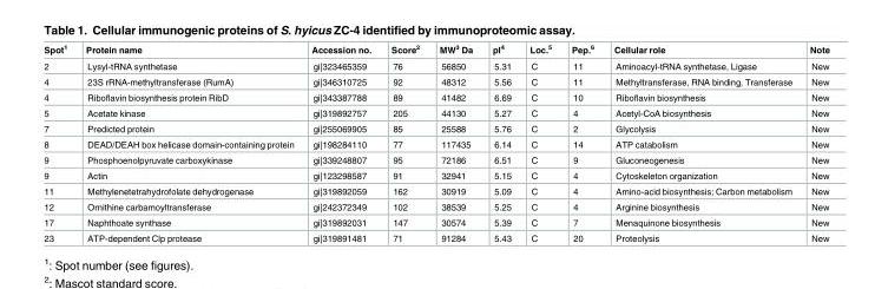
<table><thead><tr><td>Spot<sup>1</sup></td><td>Protein name</td><td>Accession no.</td><td>Score<sup>2</sup></td><td>MW<sup>3</sup> Da</td><td>pI<sup>4</sup></td><td>Loc.<sup>5</sup></td><td>Pep.<sup>6</sup></td><td>Cellular role</td><td>Note</td></tr></thead><tbody><tr><td>2</td><td>Lysyl-tRNA synthetase</td><td>gi|323465359</td><td>76</td><td>56850</td><td>5.31</td><td>C</td><td>11</td><td>Aminoacyl-tRNA synthetase, Ligase</td><td>New</td></tr><tr><td>4</td><td>23S rRNA-methyltransferase (RumA)</td><td>gi|346310725</td><td>92</td><td>48312</td><td>5.56</td><td>C</td><td>11</td><td>Methyltransferase, RNA binding, Transferase</td><td>New</td></tr><tr><td>4</td><td>Riboflavin biosynthesis protein RibD</td><td>gi|343387788</td><td>89</td><td>41482</td><td>6.69</td><td>C</td><td>10</td><td>Riboflavin biosynthesis</td><td>New</td></tr><tr><td>5</td><td>Acetate kinase</td><td>gi|319892757</td><td>205</td><td>44130</td><td>5.27</td><td>C</td><td>4</td><td>Acetyl-CoA biosynthesis</td><td>New</td></tr><tr><td>7</td><td>Predicted protein</td><td>gi|255069905</td><td>85</td><td>25588</td><td>5.76</td><td>C</td><td>2</td><td>Glycolysis</td><td>New</td></tr><tr><td>8</td><td>DEAD/DEAH box helicase domain-containing protein</td><td>gi|198284110</td><td>77</td><td>117435</td><td>6.14</td><td>C</td><td>14</td><td>ATP catabolism</td><td>New</td></tr><tr><td>9</td><td>Phosphoenolpyruvate carboxykinase</td><td>gi|339248807</td><td>95</td><td>72186</td><td>6.51</td><td>C</td><td>9</td><td>Gluconeogenesis</td><td>New</td></tr><tr><td>9</td><td>Actin</td><td>gi|123298587</td><td>91</td><td>32941</td><td>5.15</td><td>C</td><td>4</td><td>Cytoskeleton organization</td><td>New</td></tr><tr><td>11</td><td>Methylenetetrahydrofolate dehydrogenase</td><td>gi|319892059</td><td>162</td><td>30919</td><td>5.09</td><td>C</td><td>4</td><td>Amino-acid biosynthesis; Carbon metabolism</td><td>New</td></tr><tr><td>12</td><td>Ornithine carbamoyltransferase</td><td>gi|242372349</td><td>102</td><td>38539</td><td>5.25</td><td>C</td><td>4</td><td>Arginine biosynthesis</td><td>New</td></tr><tr><td>17</td><td>Naphthoate synthase</td><td>gi|319892031</td><td>147</td><td>30574</td><td>5.39</td><td>C</td><td>7</td><td>Menaquinone biosynthesis</td><td>New</td></tr><tr><td>23</td><td>ATP-dependent Clp protease</td><td>gi|319891481</td><td>71</td><td>91284</td><td>5.43</td><td>C</td><td>20</td><td>Proteolysis</td><td>New</td></tr></tbody></table>